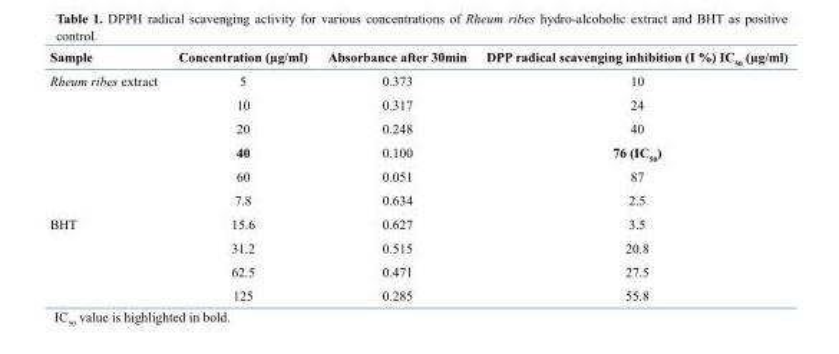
<table><thead><tr><td>Sample</td><td>Concentration (µg/ml)</td><td>Absorbance after 30min</td><td>DPP radical scavenging inhibition (I %) IC<sub>50</sub> (µg/ml)</td></tr></thead><tbody><tr><td>Rheum ribes extract BHT</td><td>5 10 20 40 60 7.8 15.6 31.2 62.5 125</td><td>0.373 0.317 0.248 0.100 0.051 0.634 0.627 0.515 0.471 0.285</td><td>10 24 40 76 (IC<sub>50</sub>) 87 2.5 3.5 20.8 27.5 55.8</td></tr></tbody></table>